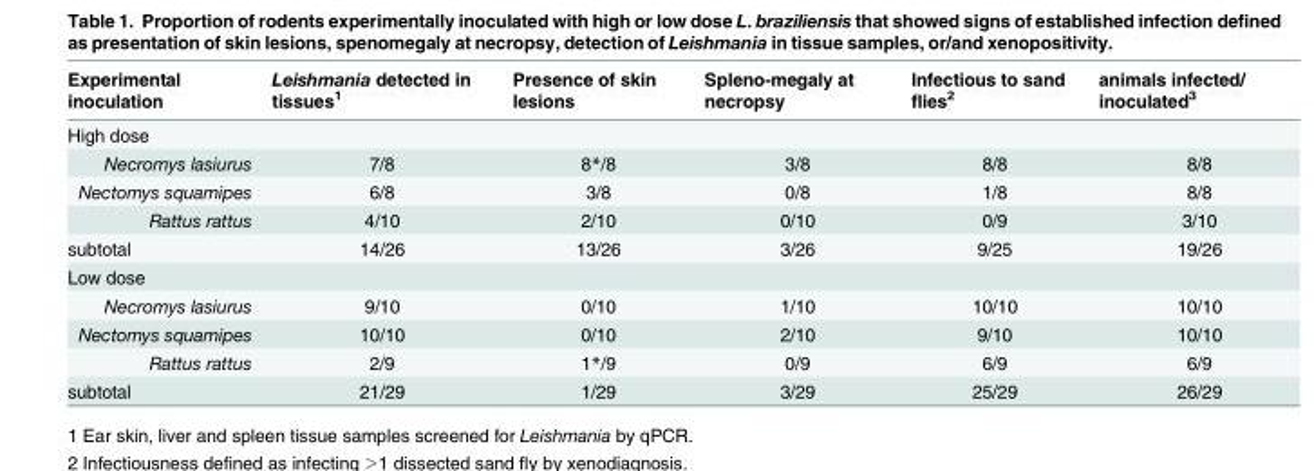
<table><thead><tr><td>Experimental inoculation</td><td>Leishmania detected in tissues<sup>1</sup></td><td>Presence of skin lesions</td><td>Spleno-megaly at necropsy</td><td>Infectious to sand flies<sup>2</sup></td><td>animals infected/ inoculated<sup>3</sup></td></tr></thead><tbody><tr><td colspan="6">High dose</td></tr><tr><td>Necromys lasiurus</td><td>7/8</td><td>8*/8</td><td>3/8</td><td>8/8</td><td>8/8</td></tr><tr><td>Nectomys squamipes</td><td>6/8</td><td>3/8</td><td>0/8</td><td>1/8</td><td>8/8</td></tr><tr><td>Rattus rattus</td><td>4/10</td><td>2/10</td><td>0/10</td><td>0/9</td><td>3/10</td></tr><tr><td>subtotal</td><td>14/26</td><td>13/26</td><td>3/26</td><td>9/25</td><td>19/26</td></tr><tr><td colspan="6">Low dose</td></tr><tr><td>Necromys lasiurus</td><td>9/10</td><td>0/10</td><td>1/10</td><td>10/10</td><td>10/10</td></tr><tr><td>Nectomys squamipes</td><td>10/10</td><td>0/10</td><td>2/10</td><td>9/10</td><td>10/10</td></tr><tr><td>Rattus rattus</td><td>2/9</td><td>1*/9</td><td>0/9</td><td>6/9</td><td>6/9</td></tr><tr><td>subtotal</td><td>21/29</td><td>1/29</td><td>3/29</td><td>25/29</td><td>26/29</td></tr></tbody></table>